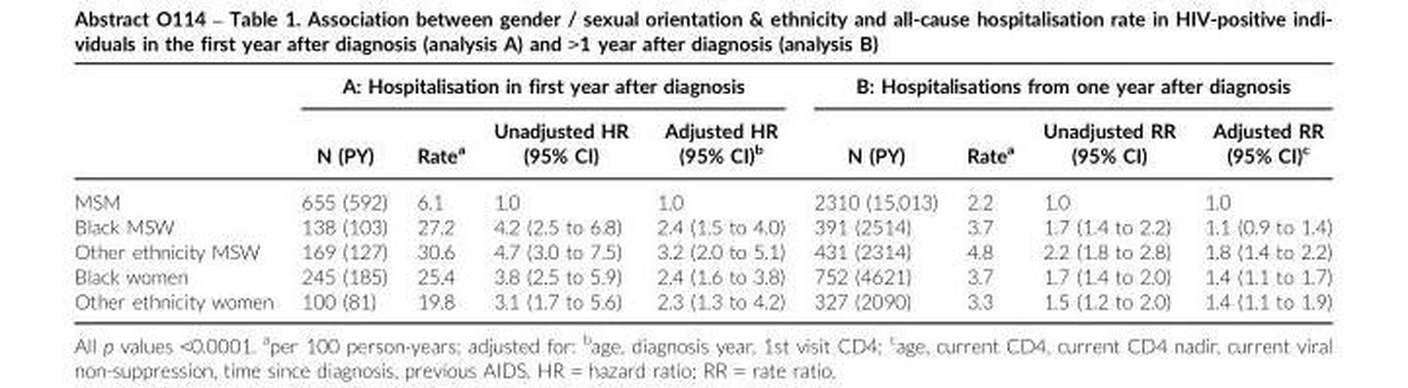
<table><thead><tr><td rowspan="2"></td><td colspan="4">A: Hospitalisation in first year after diagnosis</td><td colspan="4">B: Hospitalisations from one year after diagnosis</td></tr><tr><td>N (PY)</td><td>Rate<sup>a</sup></td><td>Unadjusted HR (95% CI)</td><td>Adjusted HR (95% CI)<sup>b</sup></td><td>N (PY)</td><td>Rate<sup>a</sup></td><td>Unadjusted RR (95% CI)</td><td>Adjusted RR (95% CI)<sup>c</sup></td></tr></thead><tbody><tr><td>MSM</td><td>655 (592)</td><td>6.1</td><td>1.0</td><td>1.0</td><td>2310 (15,013)</td><td>2.2</td><td>1.0</td><td>1.0</td></tr><tr><td>Black MSW</td><td>138 (103)</td><td>27.2</td><td>4.2 (2.5 to 6.8)</td><td>2.4 (1.5 to 4.0)</td><td>391 (2514)</td><td>3.7</td><td>1.7 (1.4 to 2.2)</td><td>1.1 (0.9 to 1.4)</td></tr><tr><td>Other ethnicity MSW</td><td>169 (127)</td><td>30.6</td><td>4.7 (3.0 to 7.5)</td><td>3.2 (2.0 to 5.1)</td><td>431 (2314)</td><td>4.8</td><td>2.2 (1.8 to 2.8)</td><td>1.8 (1.4 to 2.2)</td></tr><tr><td>Black women</td><td>245 (185)</td><td>25.4</td><td>3.8 (2.5 to 5.9)</td><td>2.4 (1.6 to 3.8)</td><td>752 (4621)</td><td>3.7</td><td>1.7 (1.4 to 2.0)</td><td>1.4 (1.1 to 1.7)</td></tr><tr><td>Other ethnicity women</td><td>100 (81)</td><td>19.8</td><td>3.1 (1.7 to 5.6)</td><td>2.3 (1.3 to 4.2)</td><td>327 (2090)</td><td>3.3</td><td>1.5 (1.2 to 2.0)</td><td>1.4 (1.1 to 1.9)</td></tr></tbody></table>